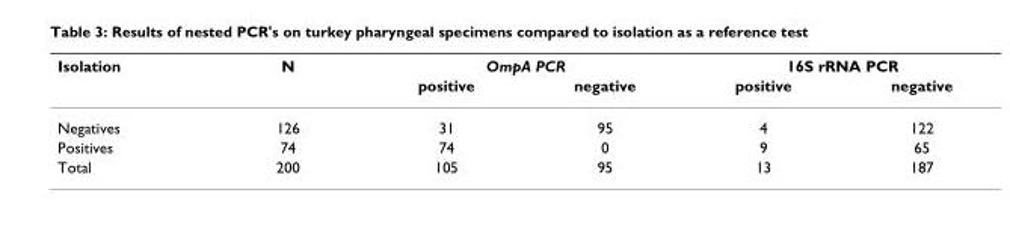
<table><thead><tr><td rowspan="2">Isolation</td><td rowspan="2">N</td><td colspan="2">OmpA PCR</td><td colspan="2">16S rRNA PCR</td></tr><tr><td>positive</td><td>negative</td><td>positive</td><td>negative</td></tr></thead><tbody><tr><td>Negatives</td><td>126</td><td>31</td><td>95</td><td>4</td><td>122</td></tr><tr><td>Positives</td><td>74</td><td>74</td><td>0</td><td>9</td><td>65</td></tr><tr><td>Total</td><td>200</td><td>105</td><td>95</td><td>13</td><td>187</td></tr></tbody></table>